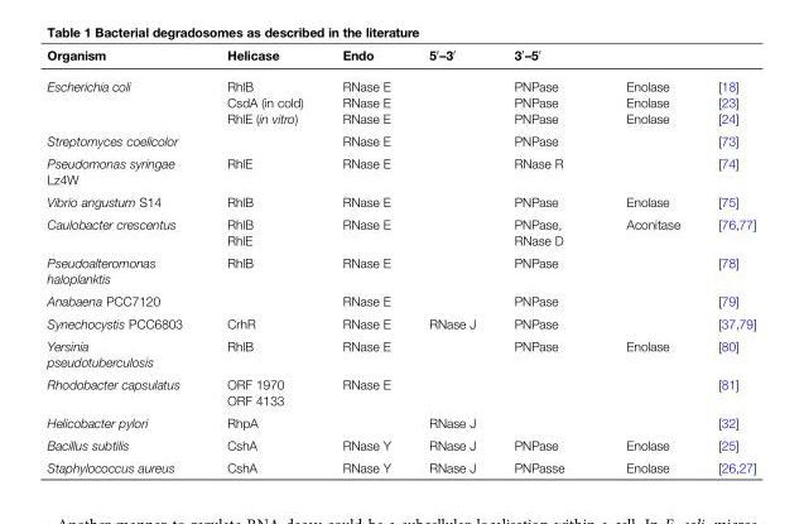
<table><thead><tr><td>Organism</td><td>Helicase</td><td>Endo</td><td>5′–3′</td><td>3′–5′</td><td></td><td></td></tr></thead><tbody><tr><td rowspan="3">Escherichia coli</td><td>RhlB</td><td>RNase E</td><td></td><td>PNPase</td><td>Enolase</td><td>[18]</td></tr><tr><td>CsdA (in cold)</td><td>RNase E</td><td></td><td>PNPase</td><td>Enolase</td><td>[23]</td></tr><tr><td>RhlE (in vitro)</td><td>RNase E</td><td></td><td>PNPase</td><td>Enolase</td><td>[24]</td></tr><tr><td>Streptomyces coelicolor</td><td></td><td>RNase E</td><td></td><td>PNPase</td><td></td><td>[73]</td></tr><tr><td>Pseudomonas syringae Lz4W</td><td>RhlE</td><td>RNase E</td><td></td><td>RNase R</td><td></td><td>[74]</td></tr><tr><td>Vibrio angustum S14</td><td>RhlB</td><td>RNase E</td><td></td><td>PNPase</td><td>Enolase</td><td>[75]</td></tr><tr><td>Caulobacter crescentus</td><td>RhlB RhlE</td><td>RNase E</td><td></td><td>PNPase, RNase D</td><td>Aconitase</td><td>[76,77]</td></tr><tr><td>Pseudoalteromonas haloplanktis</td><td>RhlB</td><td>RNase E</td><td></td><td>PNPase</td><td></td><td>[78]</td></tr><tr><td>Anabaena PCC7120</td><td></td><td>RNase E</td><td></td><td>PNPase</td><td></td><td>[79]</td></tr><tr><td>Synechocystis PCC6803</td><td>CrhR</td><td>RNase E</td><td>RNase J</td><td>PNPase</td><td></td><td>[37,79]</td></tr><tr><td>Yersinia pseudotuberculosis</td><td>RhlB</td><td>RNase E</td><td></td><td>PNPase</td><td>Enolase</td><td>[80]</td></tr><tr><td>Rhodobacter capsulatus</td><td>ORF 1970 ORF 4133</td><td>RNase E</td><td></td><td></td><td></td><td>[81]</td></tr><tr><td>Helicobacter pylori</td><td>RhpA</td><td></td><td>RNase J</td><td></td><td></td><td>[32]</td></tr><tr><td>Bacillus subtilis</td><td>CshA</td><td>RNase Y</td><td>RNase J</td><td>PNPase</td><td>Enolase</td><td>[25]</td></tr><tr><td>Staphylococcus aureus</td><td>CshA</td><td>RNase Y</td><td>RNase J</td><td>PNPasse</td><td>Enolase</td><td>[26,27]</td></tr></tbody></table>